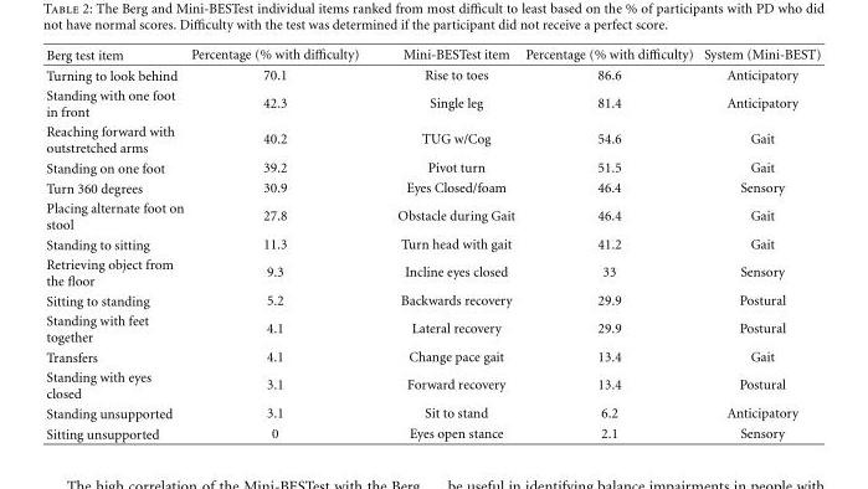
<table><thead><tr><td>Berg test item</td><td>Percentage (% with difficulty)</td><td>Mini-BESTest item</td><td>Percentage (% with difficulty)</td><td>System (Mini-BEST)</td></tr></thead><tbody><tr><td>Turning to look behind</td><td>70.1</td><td>Rise to toes</td><td>86.6</td><td>Anticipatory</td></tr><tr><td>Standing with one foot in front</td><td>42.3</td><td>Single leg</td><td>81.4</td><td>Anticipatory</td></tr><tr><td>Reaching forward with outstretched arms</td><td>40.2</td><td>TUG w/Cog</td><td>54.6</td><td>Gait</td></tr><tr><td>Standing on one foot</td><td>39.2</td><td>Pivot turn</td><td>51.5</td><td>Gait</td></tr><tr><td>Turn 360 degrees</td><td>30.9</td><td>Eyes Closed/foam</td><td>46.4</td><td>Sensory</td></tr><tr><td>Placing alternate foot on stool</td><td>27.8</td><td>Obstacle during Gait</td><td>46.4</td><td>Gait</td></tr><tr><td>Standing to sitting</td><td>11.3</td><td>Turn head with gait</td><td>41.2</td><td>Gait</td></tr><tr><td>Retrieving object from the floor</td><td>9.3</td><td>Incline eyes closed</td><td>33</td><td>Sensory</td></tr><tr><td>Sitting to standing</td><td>5.2</td><td>Backwards recovery</td><td>29.9</td><td>Postural</td></tr><tr><td>Standing with feet together</td><td>4.1</td><td>Lateral recovery</td><td>29.9</td><td>Postural</td></tr><tr><td>Transfers</td><td>4.1</td><td>Change pace gait</td><td>13.4</td><td>Gait</td></tr><tr><td>Standing with eyes closed</td><td>3.1</td><td>Forward recovery</td><td>13.4</td><td>Postural</td></tr><tr><td>Standing unsupported</td><td>3.1</td><td>Sit to stand</td><td>6.2</td><td>Anticipatory</td></tr><tr><td>Sitting unsupported</td><td>0</td><td>Eyes open stance</td><td>2.1</td><td>Sensory</td></tr></tbody></table>